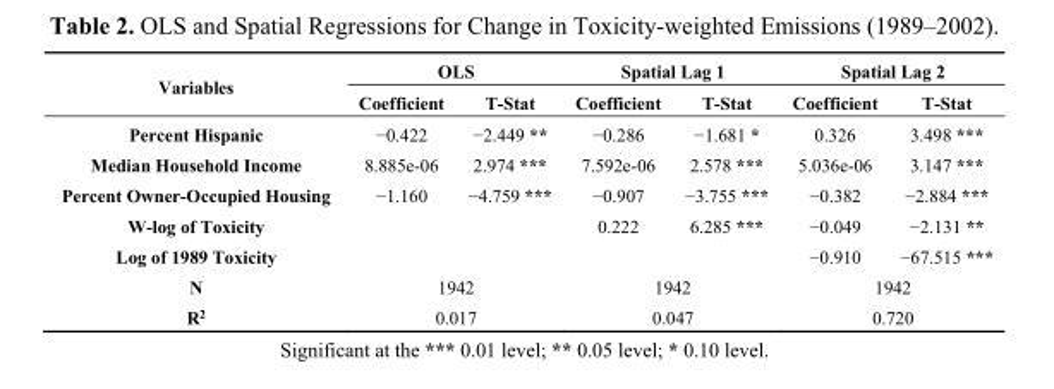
<table><thead><tr><td rowspan="2">Variables</td><td colspan="2">OLS</td><td colspan="2">Spatial Lag 1</td><td colspan="2">Spatial Lag 2</td></tr><tr><td>Coefficient</td><td>T-Stat</td><td>Coefficient</td><td>T-Stat</td><td>Coefficient</td><td>T-Stat</td></tr></thead><tbody><tr><td>Percent Hispanic</td><td>−0.422</td><td>−2.449 **</td><td>−0.286</td><td>−1.681 *</td><td>0.326</td><td>3.498 ***</td></tr><tr><td>Median Household Income</td><td>8.885e-06</td><td>2.974 ***</td><td>7.592e-06</td><td>2.578 ***</td><td>5.036e-06</td><td>3.147 ***</td></tr><tr><td>Percent Owner-Occupied Housing</td><td>−1.160</td><td>−4.759 ***</td><td>−0.907</td><td>−3.755 ***</td><td>−0.382</td><td>−2.884 ***</td></tr><tr><td>W-log of Toxicity</td><td></td><td></td><td>0.222</td><td>6.285 ***</td><td>−0.049</td><td>−2.131 **</td></tr><tr><td>Log of 1989 Toxicity</td><td></td><td></td><td></td><td></td><td>−0.910</td><td>−67.515 ***</td></tr><tr><td>N</td><td colspan="2">1942</td><td colspan="2">1942</td><td colspan="2">1942</td></tr><tr><td>R<sup>2</sup></td><td colspan="2">0.017</td><td colspan="2">0.047</td><td colspan="2">0.720</td></tr></tbody></table>